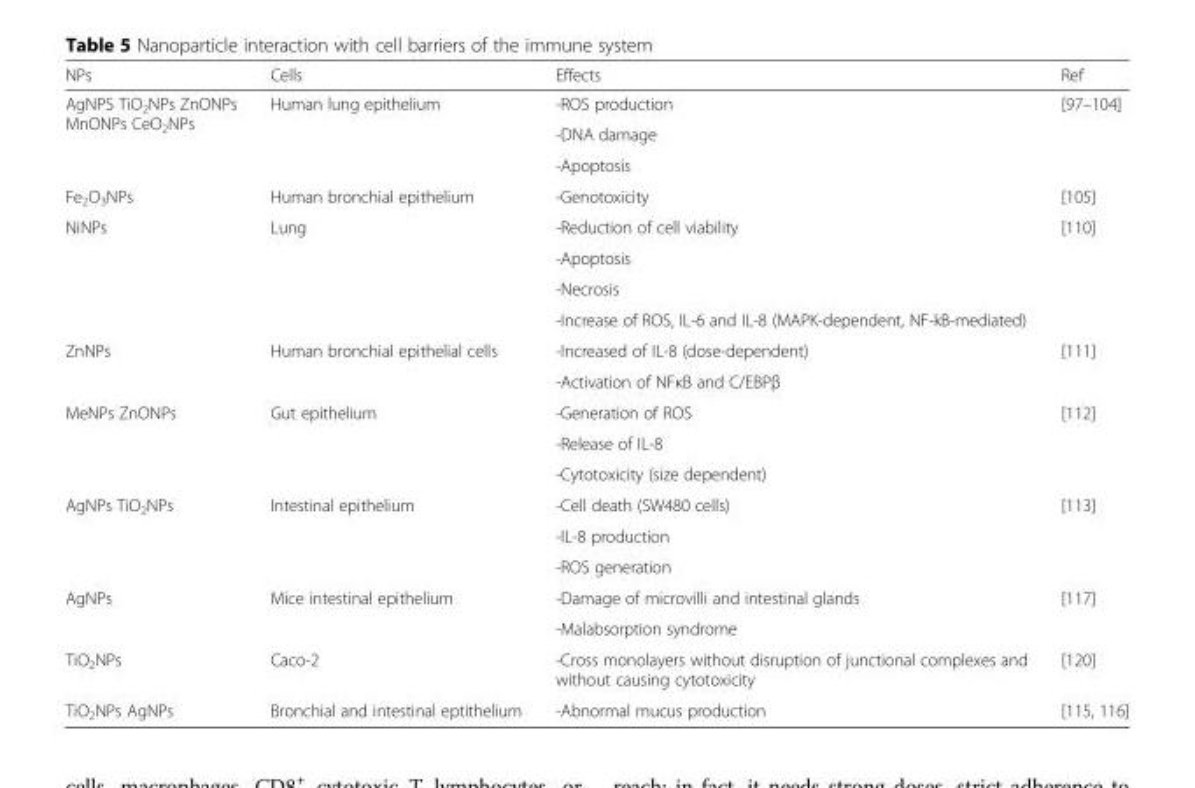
<table><thead><tr><td>NPs</td><td>Cells</td><td>Effects</td><td>Ref</td></tr></thead><tbody><tr><td rowspan="3">AgNPS TiO<sub>2</sub>NPs ZnONPs MnONPs CeO<sub>2</sub>NPs</td><td rowspan="3">Human lung epithelium</td><td>-ROS production</td><td rowspan="3">[97–104]</td></tr><tr><td>-DNA damage</td></tr><tr><td>-Apoptosis</td></tr><tr><td>Fe<sub>2</sub>O<sub>3</sub>NPs</td><td>Human bronchial epithelium</td><td>-Genotoxicity</td><td>[105]</td></tr><tr><td rowspan="4">NiNPs</td><td rowspan="4">Lung</td><td>-Reduction of cell viability</td><td rowspan="4">[110]</td></tr><tr><td>-Apoptosis</td></tr><tr><td>-Necrosis</td></tr><tr><td>-Increase of ROS, IL-6 and IL-8 (MAPK-dependent, NF-kB-mediated)</td></tr><tr><td rowspan="2">ZnNPs</td><td rowspan="2">Human bronchial epithelial cells</td><td>-Increased of IL-8 (dose-dependent)</td><td rowspan="2">[111]</td></tr><tr><td>-Activation of NFκB and C/EBPβ</td></tr><tr><td rowspan="3">MeNPs ZnONPs</td><td rowspan="3">Gut epithelium</td><td>-Generation of ROS</td><td rowspan="3">[112]</td></tr><tr><td>-Release of IL-8</td></tr><tr><td>-Cytotoxicity (size dependent)</td></tr><tr><td rowspan="3">AgNPs TiO<sub>2</sub>NPs</td><td rowspan="3">Intestinal epithelium</td><td>-Cell death (SW480 cells)</td><td rowspan="3">[113]</td></tr><tr><td>-IL-8 production</td></tr><tr><td>-ROS generation</td></tr><tr><td rowspan="2">AgNPs</td><td rowspan="2">Mice intestinal epithelium</td><td>-Damage of microvilli and intestinal glands</td><td rowspan="2">[117]</td></tr><tr><td>-Malabsorption syndrome</td></tr><tr><td>TiO<sub>2</sub>NPs</td><td>Caco-2</td><td>-Cross monolayers without disruption of junctional complexes and without causing cytotoxicity</td><td>[120]</td></tr><tr><td>TiO<sub>2</sub>NPs AgNPs</td><td>Bronchial and intestinal eptithelium</td><td>-Abnormal mucus production</td><td>[115, 116]</td></tr></tbody></table>